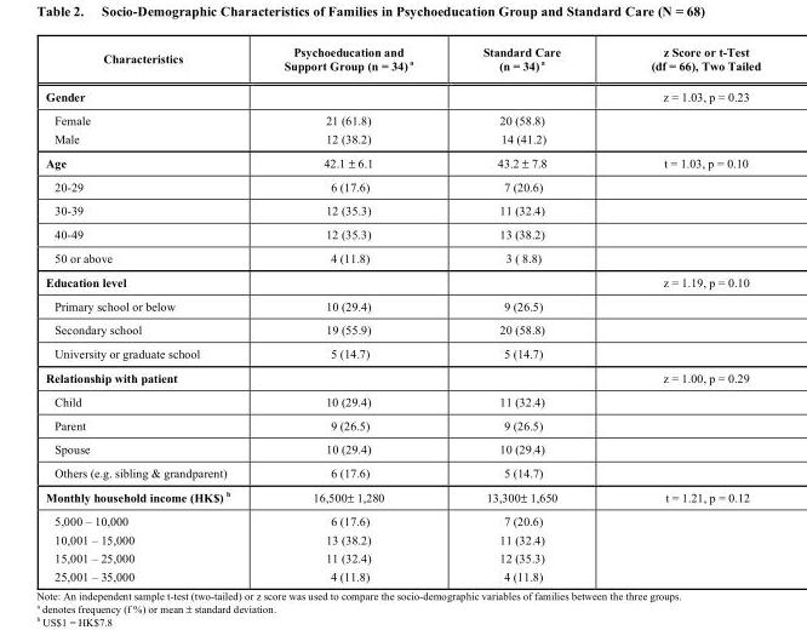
<table><thead><tr><td>Characteristics</td><td>Psychoeducation and Support Group (n = 34) a</td><td>Standard Care (n = 34) <sup>a</sup></td><td>z Score or t-Test (df = 66), Two Tailed</td></tr></thead><tbody><tr><td>Gender</td><td></td><td></td><td>z = 1.03, p = 0.23</td></tr><tr><td>Female Male</td><td>21 (61.8) 12 (38.2)</td><td>20 (58.8) 14 (41.2)</td><td></td></tr><tr><td>Age</td><td>42.1 ± 6.1</td><td>43.2 ± 7.8</td><td>t = 1.03, p = 0.10</td></tr><tr><td>20-29</td><td>6 (17.6)</td><td>7 (20.6)</td><td></td></tr><tr><td>30-39</td><td>12 (35.3)</td><td>11 (32.4)</td><td></td></tr><tr><td>40-49</td><td>12 (35.3)</td><td>13 (38.2)</td><td></td></tr><tr><td>50 or above</td><td>4 (11.8)</td><td>3 ( 8.8)</td><td></td></tr><tr><td>Education level</td><td></td><td></td><td>z = 1.19, p = 0.10</td></tr><tr><td>Primary school or below</td><td>10 (29.4)</td><td>9 (26.5)</td><td></td></tr><tr><td>Secondary school</td><td>19 (55.9)</td><td>20 (58.8)</td><td></td></tr><tr><td>University or graduate school</td><td>5 (14.7)</td><td>5 (14.7)</td><td></td></tr><tr><td>Relationship with patient</td><td></td><td></td><td>z = 1.00, p = 0.29</td></tr><tr><td>Child</td><td>10 (29.4)</td><td>11 (32.4)</td><td></td></tr><tr><td>Parent</td><td>9 (26.5)</td><td>9 (26.5)</td><td></td></tr><tr><td>Spouse</td><td>10 (29.4)</td><td>10 (29.4)</td><td></td></tr><tr><td>Others (e.g. sibling &amp; grandparent)</td><td>6 (17.6)</td><td>5 (14.7)</td><td></td></tr><tr><td>Monthly household income (HK$) <sup>b</sup></td><td>16,500± 1,280</td><td>13,300± 1,650</td><td>t = 1.21, p = 0.12</td></tr><tr><td>5,000 – 10,000 10,001 – 15,000 15,001 – 25,000 25,001 – 35,000</td><td>6 (17.6) 13 (38.2) 11 (32.4) 4 (11.8)</td><td>7 (20.6) 11 (32.4) 12 (35.3) 4 (11.8)</td><td></td></tr></tbody></table>